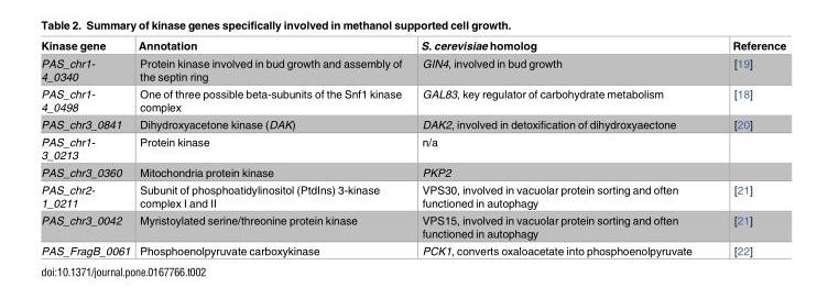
<table><thead><tr><td>Kinase gene</td><td>Annotation</td><td>S. cerevisiae homolog</td><td>Reference</td></tr></thead><tbody><tr><td>PAS_chr1- 4_0340</td><td>Protein kinase involved in bud growth and assembly of the septin ring</td><td>GIN4, involved in bud growth</td><td>[19]</td></tr><tr><td>PAS_chr1- 4_0498</td><td>One of three possible beta-subunits of the Snf1 kinase complex</td><td>GAL83, key regulator of carbohydrate metabolism</td><td>[18]</td></tr><tr><td>PAS_chr3_0841</td><td>Dihydroxyacetone kinase (DAK)</td><td>DAK2, involved in detoxification of dihydroxyaectone</td><td>[20]</td></tr><tr><td>PAS_chr1- 3_0213</td><td>Protein kinase</td><td>n/a</td><td></td></tr><tr><td>PAS_chr3_0360</td><td>Mitochondria protein kinase</td><td>PKP2</td><td></td></tr><tr><td>PAS_chr2- 1_0211</td><td>Subunit of phosphoatidylinositol (PtdIns) 3-kinase complex I and II</td><td>VPS30, involved in vacuolar protein sorting and often functioned in autophagy</td><td>[21]</td></tr><tr><td>PAS_chr3_0042</td><td>Myristoylated serine/threonine protein kinase</td><td>VPS15, involved in vacuolar protein sorting and often functioned in autophagy</td><td>[21]</td></tr><tr><td>PAS_FragB_0061</td><td>Phosphoenolpyruvate carboxykinase</td><td>PCK1, converts oxaloacetate into phosphoenolpyruvate</td><td>[22]</td></tr></tbody></table>